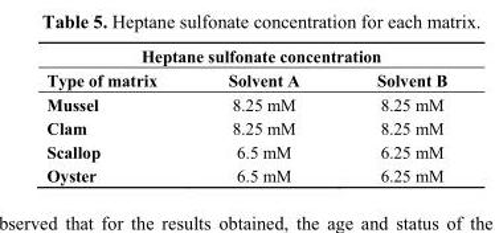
<table><thead><tr><td colspan="3">Heptane sulfonate concentration</td></tr><tr><td>Type of matrix</td><td>Solvent A</td><td>Solvent B</td></tr></thead><tbody><tr><td>Mussel</td><td>8.25 mM</td><td>8.25 mM</td></tr><tr><td>Clam</td><td>8.25 mM</td><td>8.25 mM</td></tr><tr><td>Scallop</td><td>6.5 mM</td><td>6.25 mM</td></tr><tr><td>Oyster</td><td>6.5 mM</td><td>6.25 mM</td></tr></tbody></table>